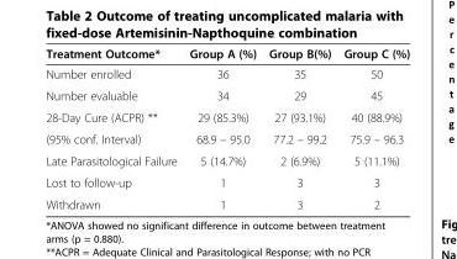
<table><thead><tr><td>Treatment Outcome*</td><td>Group A (%)</td><td>Group B(%)</td><td>Group C (%)</td></tr></thead><tbody><tr><td>Number enrolled</td><td>36</td><td>35</td><td>50</td></tr><tr><td>Number evaluable</td><td>34</td><td>29</td><td>45</td></tr><tr><td>28-Day Cure (ACPR) **</td><td>29 (85.3%)</td><td>27 (93.1%)</td><td>40 (88.9%)</td></tr><tr><td>(95% conf. Interval)</td><td>68.9 – 95.0</td><td>77.2 – 99.2</td><td>75.9 – 96.3</td></tr><tr><td>Late Parasitological Failure</td><td>5 (14.7%)</td><td>2 (6.9%)</td><td>5 (11.1%)</td></tr><tr><td>Lost to follow-up</td><td>1</td><td>3</td><td>3</td></tr><tr><td>Withdrawn</td><td>1</td><td>3</td><td>2</td></tr></tbody></table>